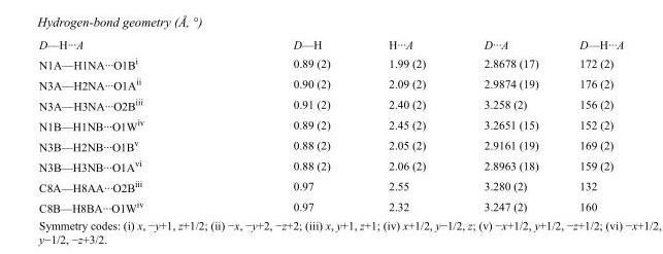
<table><tbody><tr><td>D—H···A</td><td>D—H</td><td>H···A</td><td>D···A</td><td>D—H···A</td></tr><tr><td>N1A—H1NA···O1B<sup>i</sup></td><td>0.89 (2)</td><td>1.99 (2)</td><td>2.8678 (17)</td><td>172 (2)</td></tr><tr><td>N3A—H2NA···O1A<sup>ii</sup></td><td>0.90 (2)</td><td>2.09 (2)</td><td>2.9874 (19)</td><td>176 (2)</td></tr><tr><td>N3A—H3NA···O2B<sup>iii</sup></td><td>0.91 (2)</td><td>2.40 (2)</td><td>3.258 (2)</td><td>156 (2)</td></tr><tr><td>N1B—H1NB···O1W<sup>iv</sup></td><td>0.89 (2)</td><td>2.45 (2)</td><td>3.2651 (15)</td><td>152 (2)</td></tr><tr><td>N3B—H2NB···O1B<sup>v</sup></td><td>0.88 (2)</td><td>2.05 (2)</td><td>2.9161 (19)</td><td>169 (2)</td></tr><tr><td>N3B—H3NB···O1A<sup>vi</sup></td><td>0.88 (2)</td><td>2.06 (2)</td><td>2.8963 (18)</td><td>159 (2)</td></tr><tr><td>C8A—H8AA···O2B<sup>iii</sup></td><td>0.97</td><td>2.55</td><td>3.280 (2)</td><td>132</td></tr><tr><td>C8B—H8BA···O1W<sup>iv</sup></td><td>0.97</td><td>2.32</td><td>3.247 (2)</td><td>160</td></tr></tbody></table>